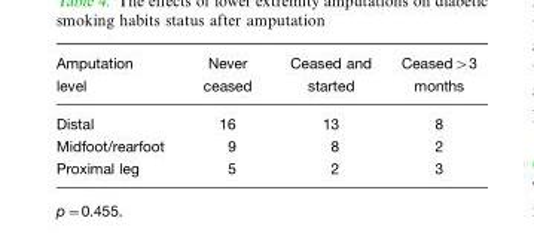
<table><thead><tr><td>Amputation level</td><td>Never ceased</td><td>Ceased and started</td><td>Ceased&gt;3 months</td></tr></thead><tbody><tr><td>Distal</td><td>16</td><td>13</td><td>8</td></tr><tr><td>Midfoot/rearfoot</td><td>9</td><td>8</td><td>2</td></tr><tr><td>Proximal leg</td><td>5</td><td>2</td><td>3</td></tr></tbody></table>